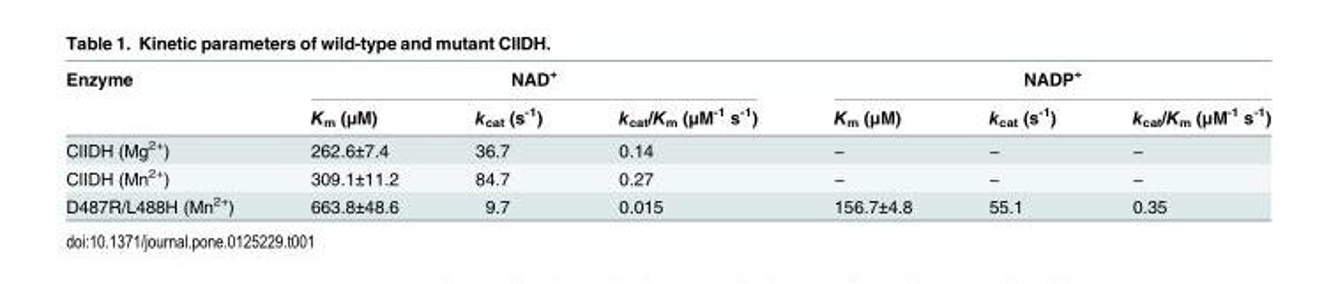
<table><thead><tr><td rowspan="2">Enzyme</td><td colspan="3">NAD<sup>+</sup></td><td colspan="3">NADP<sup>+</sup></td></tr><tr><td>K<sub>m</sub> (μM)</td><td>k<sub>cat</sub> (s<sup>-1</sup>)</td><td>k<sub>cat</sub>/K<sub>m</sub> (μM<sup>-1</sup> s<sup>-1</sup>)</td><td>K<sub>m</sub> (μM)</td><td>k<sub>cat</sub> (s<sup>-1</sup>)</td><td>k<sub>cat</sub>/K<sub>m</sub> (μM<sup>-1</sup> s<sup>-1</sup>)</td></tr></thead><tbody><tr><td>ClIDH (Mg<sup>2+</sup>)</td><td>262.6±7.4</td><td>36.7</td><td>0.14</td><td>−</td><td>−</td><td>−</td></tr><tr><td>ClIDH (Mn<sup>2+</sup>)</td><td>309.1±11.2</td><td>84.7</td><td>0.27</td><td>−</td><td>−</td><td>−</td></tr><tr><td>D487R/L488H (Mn<sup>2+</sup>)</td><td>663.8±48.6</td><td>9.7</td><td>0.015</td><td>156.7±4.8</td><td>55.1</td><td>0.35</td></tr></tbody></table>